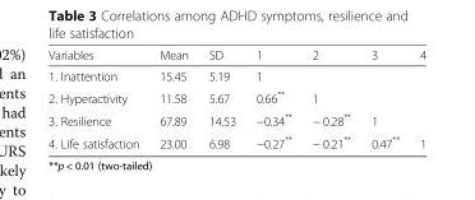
<table><thead><tr><td>Variables</td><td>Mean</td><td>SD</td><td>1</td><td>2</td><td>3</td><td>4</td></tr></thead><tbody><tr><td>1. Inattention</td><td>15.45</td><td>5.19</td><td>1</td><td></td><td></td><td></td></tr><tr><td>2. Hyperactivity</td><td>11.58</td><td>5.67</td><td>0.66**</td><td>1</td><td></td><td></td></tr><tr><td>3. Resilience</td><td>67.89</td><td>14.53</td><td>−0.34**</td><td>− 0.28**</td><td>1</td><td></td></tr><tr><td>4. Life satisfaction</td><td>23.00</td><td>6.98</td><td>−0.27**</td><td>− 0.21**</td><td>0.47**</td><td>1</td></tr></tbody></table>